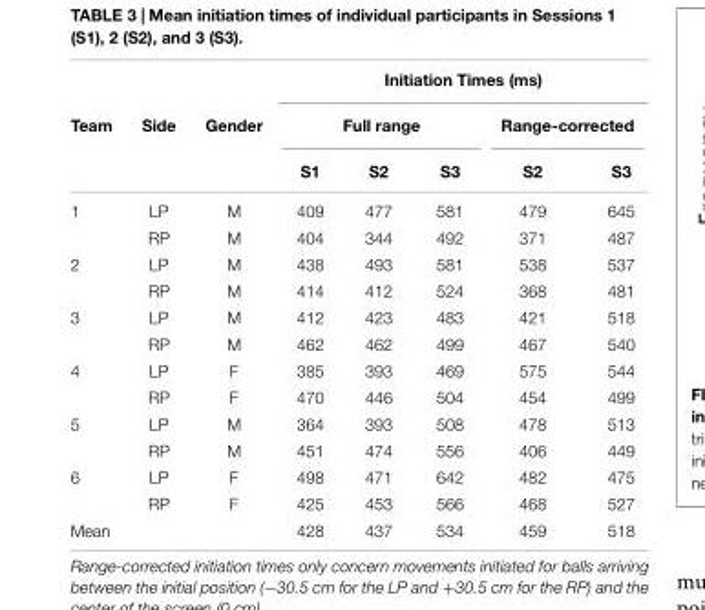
<table><thead><tr><td rowspan="3">Team</td><td rowspan="3">Side</td><td rowspan="3">Gender</td><td colspan="5">Initiation Times (ms)</td></tr><tr><td colspan="3">Full range</td><td colspan="2">Range-corrected</td></tr><tr><td>S1</td><td>S2</td><td>S3</td><td>S2</td><td>S3</td></tr></thead><tbody><tr><td rowspan="2">1</td><td>LP</td><td>M</td><td>409</td><td>477</td><td>581</td><td>479</td><td>645</td></tr><tr><td>RP</td><td>M</td><td>404</td><td>344</td><td>492</td><td>371</td><td>487</td></tr><tr><td rowspan="2">2</td><td>LP</td><td>M</td><td>438</td><td>493</td><td>581</td><td>538</td><td>537</td></tr><tr><td>RP</td><td>M</td><td>414</td><td>412</td><td>524</td><td>368</td><td>481</td></tr><tr><td rowspan="2">3</td><td>LP</td><td>M</td><td>412</td><td>423</td><td>483</td><td>421</td><td>518</td></tr><tr><td>RP</td><td>M</td><td>462</td><td>462</td><td>499</td><td>467</td><td>540</td></tr><tr><td rowspan="2">4</td><td>LP</td><td>F</td><td>385</td><td>393</td><td>469</td><td>575</td><td>544</td></tr><tr><td>RP</td><td>F</td><td>470</td><td>446</td><td>504</td><td>454</td><td>499</td></tr><tr><td rowspan="2">5</td><td>LP</td><td>M</td><td>364</td><td>393</td><td>508</td><td>478</td><td>513</td></tr><tr><td>RP</td><td>M</td><td>451</td><td>474</td><td>556</td><td>406</td><td>449</td></tr><tr><td rowspan="2">6</td><td>LP</td><td>F</td><td>498</td><td>471</td><td>642</td><td>482</td><td>475</td></tr><tr><td>RP</td><td>F</td><td>425</td><td>453</td><td>566</td><td>468</td><td>527</td></tr><tr><td>Mean</td><td></td><td></td><td>428</td><td>437</td><td>534</td><td>459</td><td>518</td></tr></tbody></table>